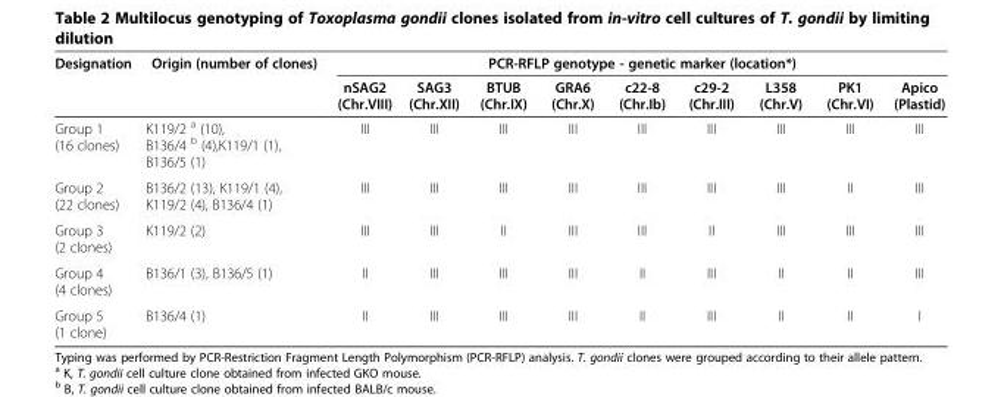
<table><thead><tr><td rowspan="2">Designation</td><td rowspan="2">Origin (number of clones)</td><td colspan="9">PCR-RFLP genotype - genetic marker (location*)</td></tr><tr><td>nSAG2 (Chr.VIII)</td><td>SAG3 (Chr.XII)</td><td>BTUB (Chr.IX)</td><td>GRA6 (Chr.X)</td><td>c22-8 (Chr.Ib)</td><td>c29-2 (Chr.III)</td><td>L358 (Chr.V)</td><td>PK1 (Chr.VI)</td><td>Apico (Plastid)</td></tr></thead><tbody><tr><td>Group 1 (16 clones)</td><td>K119/2 <sup>a</sup> (10), B136/4 <sup>b</sup> (4),K119/1 (1), B136/5 (1)</td><td>III</td><td>III</td><td>III</td><td>III</td><td>III</td><td>III</td><td>III</td><td>III</td><td>III</td></tr><tr><td>Group 2 (22 clones)</td><td>B136/2 (13), K119/1 (4), K119/2 (4), B136/4 (1)</td><td>III</td><td>III</td><td>III</td><td>III</td><td>III</td><td>III</td><td>III</td><td>II</td><td>III</td></tr><tr><td>Group 3 (2 clones)</td><td>K119/2 (2)</td><td>III</td><td>III</td><td>II</td><td>III</td><td>III</td><td>II</td><td>III</td><td>III</td><td>III</td></tr><tr><td>Group 4 (4 clones)</td><td>B136/1 (3), B136/5 (1)</td><td>II</td><td>III</td><td>III</td><td>III</td><td>II</td><td>III</td><td>II</td><td>II</td><td>III</td></tr><tr><td>Group 5 (1 clone)</td><td>B136/4 (1)</td><td>II</td><td>III</td><td>III</td><td>III</td><td>II</td><td>III</td><td>II</td><td>II</td><td>I</td></tr></tbody></table>